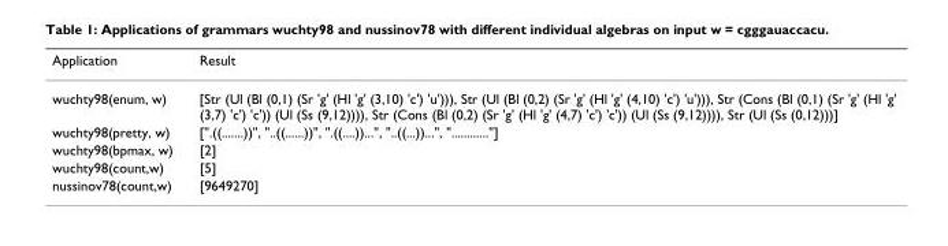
<table><thead><tr><td>Application</td><td>Result</td></tr></thead><tbody><tr><td>wuchty98(enum, w)</td><td>[Str (Ul (Bl (0,1) (Sr &#x27;g&#x27; (Hl &#x27;g&#x27; (3,10) &#x27;c&#x27;) &#x27;u&#x27;))), Str (Ul (Bl (0,2) (Sr &#x27;g&#x27; (Hl &#x27;g&#x27; (4,10) &#x27;c&#x27;) &#x27;u&#x27;))), Str (Cons (Bl (0,1) (Sr &#x27;g&#x27; (Hl &#x27;g&#x27; (3,7) &#x27;c&#x27;) &#x27;c&#x27;)) (Ul (Ss (9,12)))), Str (Cons (Bl (0,2) (Sr &#x27;g&#x27; (Hl &#x27;g&#x27; (4,7) &#x27;c&#x27;) &#x27;c&#x27;)) (Ul (Ss (9,12)))), Str (Ul (Ss (0,12)))]</td></tr><tr><td>wuchty98(pretty, w)</td><td>[&quot;.((.......))&quot;, &quot;..((......))&quot;, &quot;.((....))...&quot;, &quot;..((...))...&quot;, &quot;............&quot;]</td></tr><tr><td>wuchty98(bpmax, w)</td><td>[2]</td></tr><tr><td>wuchty98(count,w)</td><td>[5]</td></tr><tr><td>nussinov78(count,w)</td><td>[9649270]</td></tr></tbody></table>